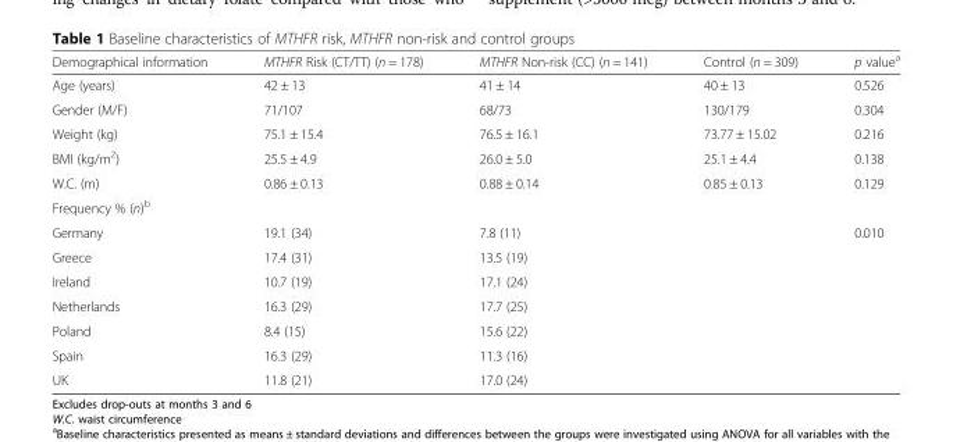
<table><thead><tr><td>Demographical information</td><td>MTHFR Risk (CT/TT) (n = 178)</td><td>MTHFR Non-risk (CC) (n = 141)</td><td>Control (n = 309)</td><td>p value<sup>a</sup></td></tr></thead><tbody><tr><td>Age (years)</td><td>42 ± 13</td><td>41 ± 14</td><td>40 ± 13</td><td>0.526</td></tr><tr><td>Gender (M/F)</td><td>71/107</td><td>68/73</td><td>130/179</td><td>0.304</td></tr><tr><td>Weight (kg)</td><td>75.1 ± 15.4</td><td>76.5 ± 16.1</td><td>73.77 ± 15.02</td><td>0.216</td></tr><tr><td>BMI (kg/m<sup>2</sup>)</td><td>25.5 ± 4.9</td><td>26.0 ± 5.0</td><td>25.1 ± 4.4</td><td>0.138</td></tr><tr><td>W.C. (m)</td><td>0.86 ± 0.13</td><td>0.88 ± 0.14</td><td>0.85 ± 0.13</td><td>0.129</td></tr><tr><td colspan="5">Frequency % (n)<sup>b</sup></td></tr><tr><td>Germany</td><td>19.1 (34)</td><td>7.8 (11)</td><td></td><td>0.010</td></tr><tr><td>Greece</td><td>17.4 (31)</td><td>13.5 (19)</td><td></td><td></td></tr><tr><td>Ireland</td><td>10.7 (19)</td><td>17.1 (24)</td><td></td><td></td></tr><tr><td>Netherlands</td><td>16.3 (29)</td><td>17.7 (25)</td><td></td><td></td></tr><tr><td>Poland</td><td>8.4 (15)</td><td>15.6 (22)</td><td></td><td></td></tr><tr><td>Spain</td><td>16.3 (29)</td><td>11.3 (16)</td><td></td><td></td></tr><tr><td>UK</td><td>11.8 (21)</td><td>17.0 (24)</td><td></td><td></td></tr></tbody></table>